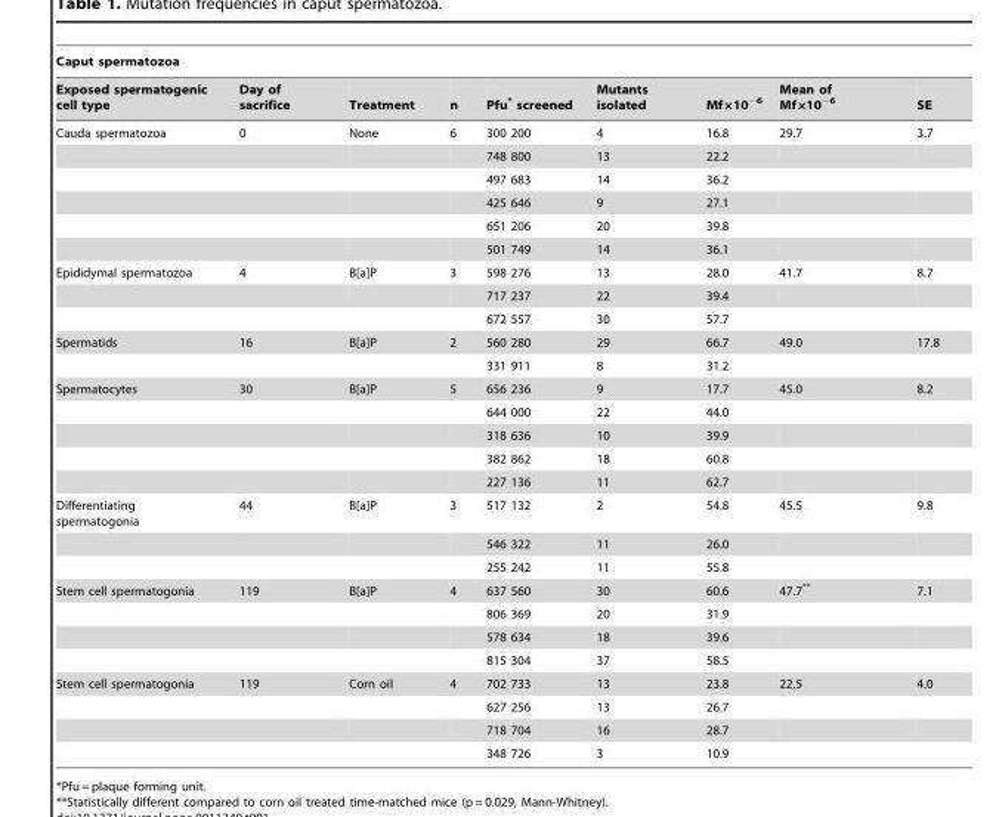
<table><thead><tr><td colspan="9">Caput spermatozoa</td></tr><tr><td>Exposed spermatogenic cell type</td><td>Day of sacrifice</td><td>Treatment</td><td>n</td><td>Pfu* screened</td><td>Mutants isolated</td><td>Mf×10<sup>−6</sup></td><td>Mean of Mf×10<sup>−6</sup></td><td>SE</td></tr></thead><tbody><tr><td rowspan="6">Cauda spermatozoa</td><td>0</td><td>None</td><td>6</td><td>300 200</td><td>4</td><td>16.8</td><td>29.7</td><td>3.7</td></tr><tr><td></td><td></td><td></td><td>748 800</td><td>13</td><td>22.2</td><td></td><td></td></tr><tr><td></td><td></td><td></td><td>497 683</td><td>14</td><td>36.2</td><td></td><td></td></tr><tr><td></td><td></td><td></td><td>425 646</td><td>9</td><td>27.1</td><td></td><td></td></tr><tr><td></td><td></td><td></td><td>651 206</td><td>20</td><td>39.8</td><td></td><td></td></tr><tr><td></td><td></td><td></td><td>501 749</td><td>14</td><td>36.1</td><td></td><td></td></tr><tr><td rowspan="3">Epididymal spermatozoa</td><td>4</td><td>B[a]P</td><td>3</td><td>598 276</td><td>13</td><td>28.0</td><td>41.7</td><td>8.7</td></tr><tr><td></td><td></td><td></td><td>717 237</td><td>22</td><td>39.4</td><td></td><td></td></tr><tr><td></td><td></td><td></td><td>672 557</td><td>30</td><td>57.7</td><td></td><td></td></tr><tr><td rowspan="2">Spermatids</td><td>16</td><td>B[a]P</td><td>2</td><td>560 280</td><td>29</td><td>66.7</td><td>49.0</td><td>17.8</td></tr><tr><td></td><td></td><td></td><td>331 911</td><td>8</td><td>31.2</td><td></td><td></td></tr><tr><td rowspan="5">Spermatocytes</td><td>30</td><td>B[a]P</td><td>5</td><td>656 236</td><td>9</td><td>17.7</td><td>45.0</td><td>8.2</td></tr><tr><td></td><td></td><td></td><td>644 000</td><td>22</td><td>44.0</td><td></td><td></td></tr><tr><td></td><td></td><td></td><td>318 636</td><td>10</td><td>39.9</td><td></td><td></td></tr><tr><td></td><td></td><td></td><td>382 862</td><td>18</td><td>60.8</td><td></td><td></td></tr><tr><td></td><td></td><td></td><td>227 136</td><td>11</td><td>62.7</td><td></td><td></td></tr><tr><td rowspan="3">Differentiating spermatogonia</td><td>44</td><td>B[a]P</td><td>3</td><td>517 132</td><td>2</td><td>54.8</td><td>45.5</td><td>9.8</td></tr><tr><td></td><td></td><td></td><td>546 322</td><td>11</td><td>26.0</td><td></td><td></td></tr><tr><td></td><td></td><td></td><td>255 242</td><td>11</td><td>55.8</td><td></td><td></td></tr><tr><td rowspan="4">Stem cell spermatogonia</td><td>119</td><td>B[a]P</td><td>4</td><td>637 560</td><td>30</td><td>60.6</td><td>47.7**</td><td>7.1</td></tr><tr><td></td><td></td><td></td><td>806 369</td><td>20</td><td>31.9</td><td></td><td></td></tr><tr><td></td><td></td><td></td><td>578 634</td><td>18</td><td>39.6</td><td></td><td></td></tr><tr><td></td><td></td><td></td><td>815 304</td><td>37</td><td>58.5</td><td></td><td></td></tr><tr><td rowspan="4">Stem cell spermatogonia</td><td>119</td><td>Corn oil</td><td>4</td><td>702 733</td><td>13</td><td>23.8</td><td>22.5</td><td>4.0</td></tr><tr><td></td><td></td><td></td><td>627 256</td><td>13</td><td>26.7</td><td></td><td></td></tr><tr><td></td><td></td><td></td><td>718 704</td><td>16</td><td>28.7</td><td></td><td></td></tr><tr><td></td><td></td><td></td><td>348 726</td><td>3</td><td>10.9</td><td></td><td></td></tr></tbody></table>